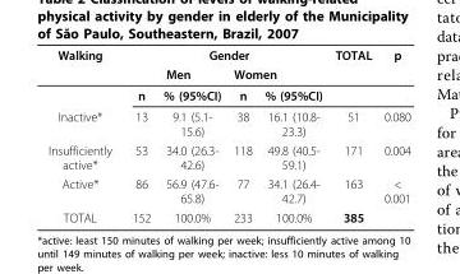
<table><thead><tr><td rowspan="3">Walking</td><td colspan="4">Gender</td><td rowspan="3">TOTAL</td><td rowspan="3">p</td></tr><tr><td colspan="2">Men</td><td colspan="2">Women</td></tr><tr><td>n</td><td>% (95%CI)</td><td>n</td><td>% (95%CI)</td></tr></thead><tbody><tr><td>Inactive*</td><td>13</td><td>9.1 (5.1- 15.6)</td><td>38</td><td>16.1 (10.8- 23.3)</td><td>51</td><td>0.080</td></tr><tr><td>Insufficiently active*</td><td>53</td><td>34.0 (26.3- 42.6)</td><td>118</td><td>49.8 (40.5- 59.1)</td><td>171</td><td>0.004</td></tr><tr><td>Active*</td><td>86</td><td>56.9 (47.6- 65.8)</td><td>77</td><td>34.1 (26.4- 42.7)</td><td>163</td><td>&lt; 0.001</td></tr><tr><td>TOTAL</td><td>152</td><td>100.0%</td><td>233</td><td>100.0%</td><td>385</td><td></td></tr></tbody></table>